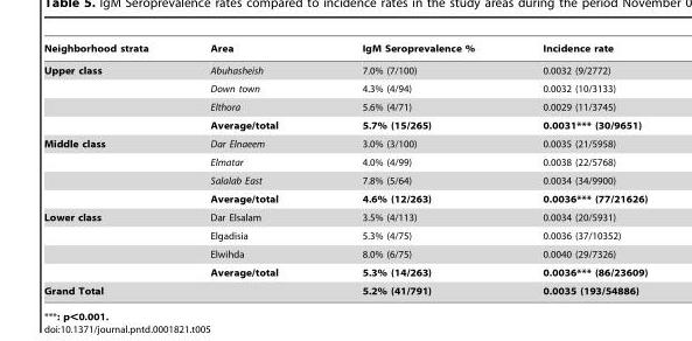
<table><thead><tr><td>Neighborhood strata</td><td>Area</td><td>IgM Seroprevalence %</td><td>Incidence rate</td></tr></thead><tbody><tr><td rowspan="4">Upper class</td><td>Abuhasheish</td><td>7.0% (7/100)</td><td>0.0032 (9/2772)</td></tr><tr><td>Down town</td><td>4.3% (4/94)</td><td>0.0032 (10/3133)</td></tr><tr><td>Elthora</td><td>5.6% (4/71)</td><td>0.0029 (11/3745)</td></tr><tr><td>Average/total</td><td>5.7% (15/265)</td><td>0.0031*** (30/9651)</td></tr><tr><td rowspan="4">Middle class</td><td>Dar Elnaeem</td><td>3.0% (3/100)</td><td>0.0035 (21/5958)</td></tr><tr><td>Elmatar</td><td>4.0% (4/99)</td><td>0.0038 (22/5768)</td></tr><tr><td>Salalab East</td><td>7.8% (5/64)</td><td>0.0034 (34/9900)</td></tr><tr><td>Average/total</td><td>4.6% (12/263)</td><td>0.0036*** (77/21626)</td></tr><tr><td rowspan="4">Lower class</td><td>Dar Elsalam</td><td>3.5% (4/113)</td><td>0.0034 (20/5931)</td></tr><tr><td>Elgadisia</td><td>5.3% (4/75)</td><td>0.0036 (37/10352)</td></tr><tr><td>Elwihda</td><td>8.0% (6/75)</td><td>0.0040 (29/7326)</td></tr><tr><td>Average/total</td><td>5.3% (14/263)</td><td>0.0036*** (86/23609)</td></tr><tr><td colspan="2">Grand Total</td><td>5.2% (41/791)</td><td>0.0035 (193/54886)</td></tr></tbody></table>